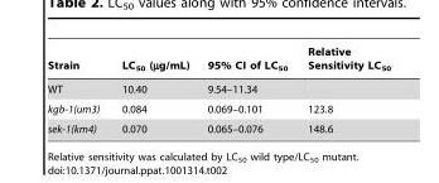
<table><thead><tr><td>Strain</td><td>LC<sub>50</sub> (µg/mL)</td><td>95% CI of LC<sub>50</sub></td><td>Relative Sensitivity LC<sub>50</sub></td></tr></thead><tbody><tr><td>WT</td><td>10.40</td><td>9.54–11.34</td><td></td></tr><tr><td>kgb-1(um3)</td><td>0.084</td><td>0.069–0.101</td><td>123.8</td></tr><tr><td>sek-1(km4)</td><td>0.070</td><td>0.065–0.076</td><td>148.6</td></tr></tbody></table>